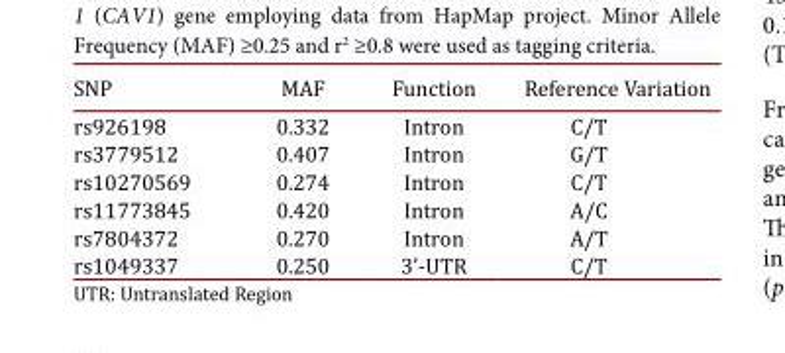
<table><thead><tr><td>SNP</td><td>MAF</td><td>Function</td><td>Reference Variation</td></tr></thead><tbody><tr><td>rs926198</td><td>0.332</td><td>Intron</td><td>C/T</td></tr><tr><td>rs3779512</td><td>0.407</td><td>Intron</td><td>G/T</td></tr><tr><td>rs10270569</td><td>0.274</td><td>Intron</td><td>C/T</td></tr><tr><td>rs11773845</td><td>0.420</td><td>Intron</td><td>A/C</td></tr><tr><td>rs7804372</td><td>0.270</td><td>Intron</td><td>A/T</td></tr><tr><td>rs1049337</td><td>0.250</td><td>3’-UTR</td><td>C/T</td></tr></tbody></table>